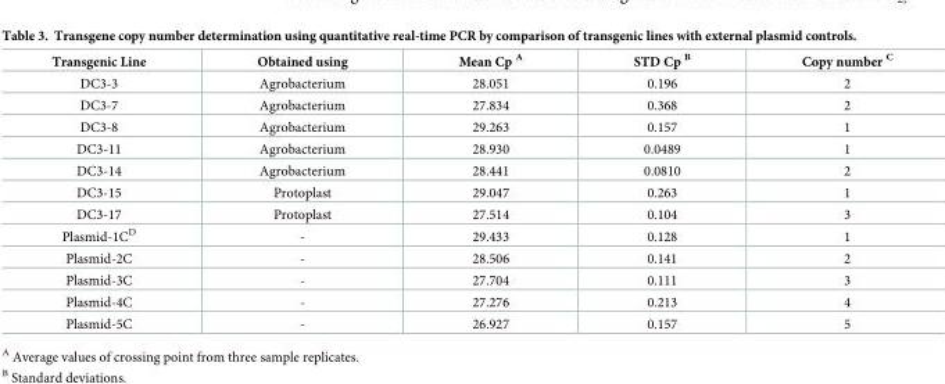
<table><thead><tr><td>Transgenic Line</td><td>Obtained using</td><td>Mean Cp <sup>A</sup></td><td>STD Cp <sup>B</sup></td><td>Copy number <sup>C</sup></td></tr></thead><tbody><tr><td>DC3-3</td><td>Agrobacterium</td><td>28.051</td><td>0.196</td><td>2</td></tr><tr><td>DC3-7</td><td>Agrobacterium</td><td>27.834</td><td>0.368</td><td>2</td></tr><tr><td>DC3-8</td><td>Agrobacterium</td><td>29.263</td><td>0.157</td><td>1</td></tr><tr><td>DC3-11</td><td>Agrobacterium</td><td>28.930</td><td>0.0489</td><td>1</td></tr><tr><td>DC3-14</td><td>Agrobacterium</td><td>28.441</td><td>0.0810</td><td>2</td></tr><tr><td>DC3-15</td><td>Protoplast</td><td>29.047</td><td>0.263</td><td>1</td></tr><tr><td>DC3-17</td><td>Protoplast</td><td>27.514</td><td>0.104</td><td>3</td></tr><tr><td>Plasmid-1C<sup>D</sup></td><td>-</td><td>29.433</td><td>0.128</td><td>1</td></tr><tr><td>Plasmid-2C</td><td>-</td><td>28.506</td><td>0.141</td><td>2</td></tr><tr><td>Plasmid-3C</td><td>-</td><td>27.704</td><td>0.111</td><td>3</td></tr><tr><td>Plasmid-4C</td><td>-</td><td>27.276</td><td>0.213</td><td>4</td></tr><tr><td>Plasmid-5C</td><td>-</td><td>26.927</td><td>0.157</td><td>5</td></tr></tbody></table>